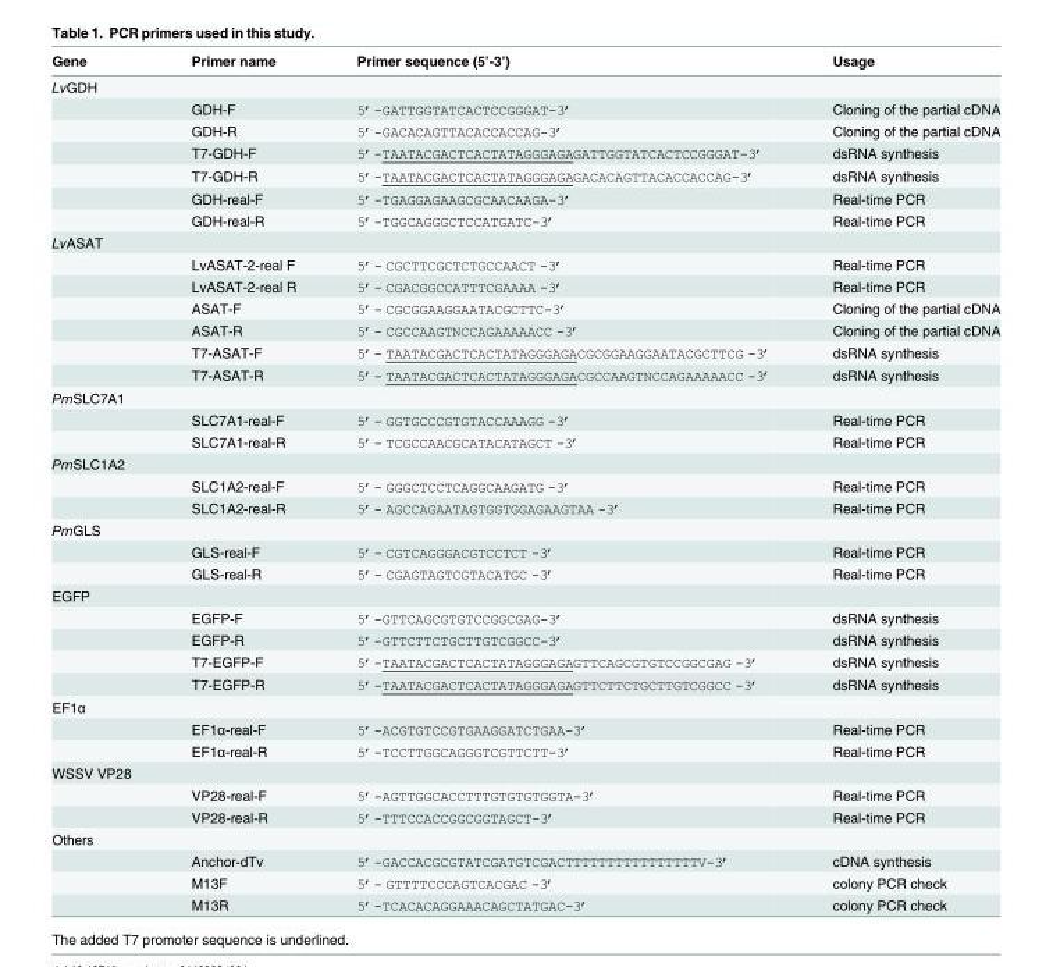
<table><thead><tr><td>Gene</td><td>Primer name</td><td>Primer sequence (5’-3’)</td><td>Usage</td></tr></thead><tbody><tr><td colspan="4">LvGDH</td></tr><tr><td></td><td>GDH-F</td><td>5’-GATTGGTATCACTCCGGGAT-3’</td><td>Cloning of the partial cDNA</td></tr><tr><td></td><td>GDH-R</td><td>5’-GACACAGTTACACCACCAG-3’</td><td>Cloning of the partial cDNA</td></tr><tr><td></td><td>T7-GDH-F</td><td>5’-TAATACGACTCACTATAGGGAGAGATTGGTATCACTCCGGGAT-3’</td><td>dsRNA synthesis</td></tr><tr><td></td><td>T7-GDH-R</td><td>5’-TAATACGACTCACTATAGGGAGAGACACAGTTACACCACCAG-3’</td><td>dsRNA synthesis</td></tr><tr><td></td><td>GDH-real-F</td><td>5’-TGAGGAGAAGCGCAACAAGA-3’</td><td>Real-time PCR</td></tr><tr><td></td><td>GDH-real-R</td><td>5’-TGGCAGGGCTCCATGATC-3’</td><td>Real-time PCR</td></tr><tr><td colspan="4">LvASAT</td></tr><tr><td></td><td>LvASAT-2-real F</td><td>5’- CGCTTCGCTCTGCCAACT -3’</td><td>Real-time PCR</td></tr><tr><td></td><td>LvASAT-2-real R</td><td>5’- CGACGGCCATTTCGAAAA -3’</td><td>Real-time PCR</td></tr><tr><td></td><td>ASAT-F</td><td>5’- CGCGGAAGGAATACGCTTC-3’</td><td>Cloning of the partial cDNA</td></tr><tr><td></td><td>ASAT-R</td><td>5’- CGCCAAGTNCCAGAAAAACC -3’</td><td>Cloning of the partial cDNA</td></tr><tr><td></td><td>T7-ASAT-F</td><td>5’- TAATACGACTCACTATAGGGAGACGCGGAAGGAATACGCTTCG -3’</td><td>dsRNA synthesis</td></tr><tr><td></td><td>T7-ASAT-R</td><td>5’- TAATACGACTCACTATAGGGAGACGCCAAGTNCCAGAAAAACC -3’</td><td>dsRNA synthesis</td></tr><tr><td colspan="4">PmSLC7A1</td></tr><tr><td></td><td>SLC7A1-real-F</td><td>5’- GGTGCCCGTGTACCAAAGG -3’</td><td>Real-time PCR</td></tr><tr><td></td><td>SLC7A1-real-R</td><td>5’- TCGCCAACGCATACATAGCT -3’</td><td>Real-time PCR</td></tr><tr><td colspan="4">PmSLC1A2</td></tr><tr><td></td><td>SLC1A2-real-F</td><td>5’- GGGCTCCTCAGGCAAGATG -3’</td><td>Real-time PCR</td></tr><tr><td></td><td>SLC1A2-real-R</td><td>5’- AGCCAGAATAGTGGTGGAGAAGTAA -3’</td><td>Real-time PCR</td></tr><tr><td colspan="4">PmGLS</td></tr><tr><td></td><td>GLS-real-F</td><td>5’- CGTCAGGGACGTCCTCT -3’</td><td>Real-time PCR</td></tr><tr><td></td><td>GLS-real-R</td><td>5’- CGAGTAGTCGTACATGC -3’</td><td>Real-time PCR</td></tr><tr><td colspan="4">EGFP</td></tr><tr><td></td><td>EGFP-F</td><td>5’-GTTCAGCGTGTCCGGCGAG-3’</td><td>dsRNA synthesis</td></tr><tr><td></td><td>EGFP-R</td><td>5’-GTTCTTCTGCTTGTCGGCC-3’</td><td>dsRNA synthesis</td></tr><tr><td></td><td>T7-EGFP-F</td><td>5’-TAATACGACTCACTATAGGGAGAGTTCAGCGTGTCCGGCGAG -3’</td><td>dsRNA synthesis</td></tr><tr><td></td><td>T7-EGFP-R</td><td>5’-TAATACGACTCACTATAGGGAGAGTTCTTCTGCTTGTCGGCC -3’</td><td>dsRNA synthesis</td></tr><tr><td colspan="4">EF1α</td></tr><tr><td></td><td>EF1α-real-F</td><td>5’-ACGTGTCCGTGAAGGATCTGAA-3’</td><td>Real-time PCR</td></tr><tr><td></td><td>EF1α-real-R</td><td>5’-TCCTTGGCAGGGTCGTTCTT-3’</td><td>Real-time PCR</td></tr><tr><td colspan="4">WSSV VP28</td></tr><tr><td></td><td>VP28-real-F</td><td>5’-AGTTGGCACCTTTGTGTGTGGTA-3’</td><td>Real-time PCR</td></tr><tr><td></td><td>VP28-real-R</td><td>5’-TTTCCACCGGCGGTAGCT-3’</td><td>Real-time PCR</td></tr><tr><td colspan="4">Others</td></tr><tr><td></td><td>Anchor-dTv</td><td>5’-GACCACGCGTATCGATGTCGACTTTTTTTTTTTTTTTTV-3’</td><td>cDNA synthesis</td></tr><tr><td></td><td>M13F</td><td>5’- GTTTTCCCAGTCACGAC -3’</td><td>colony PCR check</td></tr><tr><td></td><td>M13R</td><td>5’-TCACACAGGAAACAGCTATGAC-3’</td><td>colony PCR check</td></tr></tbody></table>